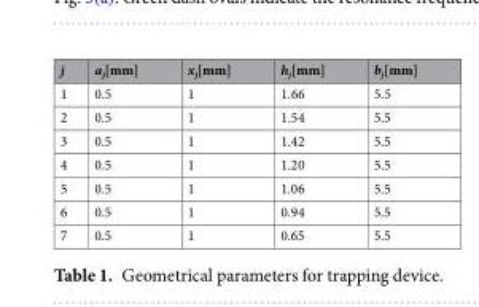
<table><thead><tr><td>j</td><td>a<sub>j</sub>[mm]</td><td>x<sub>j</sub>[mm]</td><td>h<sub>j</sub>[mm]</td><td>b<sub>j</sub>[mm]</td></tr></thead><tbody><tr><td>1</td><td>0.5</td><td>1</td><td>1.66</td><td>5.5</td></tr><tr><td>2</td><td>0.5</td><td>1</td><td>1.54</td><td>5.5</td></tr><tr><td>3</td><td>0.5</td><td>1</td><td>1.42</td><td>5.5</td></tr><tr><td>4</td><td>0.5</td><td>1</td><td>1.20</td><td>5.5</td></tr><tr><td>5</td><td>0.5</td><td>1</td><td>1.06</td><td>5.5</td></tr><tr><td>6</td><td>0.5</td><td>1</td><td>0.94</td><td>5.5</td></tr><tr><td>7</td><td>0.5</td><td>1</td><td>0.65</td><td>5.5</td></tr></tbody></table>